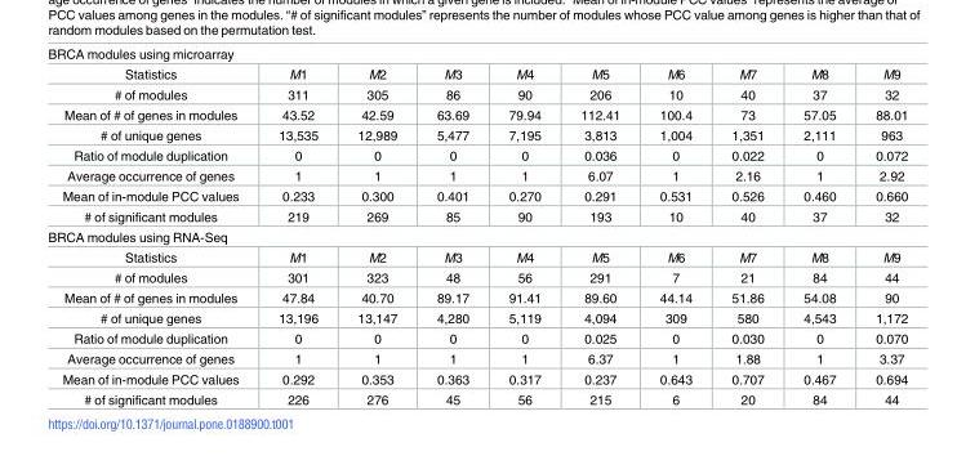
<table><tbody><tr><td colspan="10">BRCA modules using microarray</td></tr><tr><td>Statistics</td><td>M1</td><td>M2</td><td>M3</td><td>M4</td><td>M5</td><td>M6</td><td>M7</td><td>M8</td><td>M9</td></tr><tr><td># of modules</td><td>311</td><td>305</td><td>86</td><td>90</td><td>206</td><td>10</td><td>40</td><td>37</td><td>32</td></tr><tr><td>Mean of # of genes in modules</td><td>43.52</td><td>42.59</td><td>63.69</td><td>79.94</td><td>112.41</td><td>100.4</td><td>73</td><td>57.05</td><td>88.01</td></tr><tr><td># of unique genes</td><td>13,535</td><td>12,989</td><td>5,477</td><td>7,195</td><td>3,813</td><td>1,004</td><td>1,351</td><td>2,111</td><td>963</td></tr><tr><td>Ratio of module duplication</td><td>0</td><td>0</td><td>0</td><td>0</td><td>0.036</td><td>0</td><td>0.022</td><td>0</td><td>0.072</td></tr><tr><td>Average occurrence of genes</td><td>1</td><td>1</td><td>1</td><td>1</td><td>6.07</td><td>1</td><td>2.16</td><td>1</td><td>2.92</td></tr><tr><td>Mean of in-module PCC values</td><td>0.233</td><td>0.300</td><td>0.401</td><td>0.270</td><td>0.291</td><td>0.531</td><td>0.526</td><td>0.460</td><td>0.660</td></tr><tr><td># of significant modules</td><td>219</td><td>269</td><td>85</td><td>90</td><td>193</td><td>10</td><td>40</td><td>37</td><td>32</td></tr><tr><td colspan="10">BRCA modules using RNA-Seq</td></tr><tr><td>Statistics</td><td>M1</td><td>M2</td><td>M3</td><td>M4</td><td>M5</td><td>M6</td><td>M7</td><td>M8</td><td>M9</td></tr><tr><td># of modules</td><td>301</td><td>323</td><td>48</td><td>56</td><td>291</td><td>7</td><td>21</td><td>84</td><td>44</td></tr><tr><td>Mean of # of genes in modules</td><td>47.84</td><td>40.70</td><td>89.17</td><td>91.41</td><td>89.60</td><td>44.14</td><td>51.86</td><td>54.08</td><td>90</td></tr><tr><td># of unique genes</td><td>13,196</td><td>13,147</td><td>4,280</td><td>5,119</td><td>4,094</td><td>309</td><td>580</td><td>4,543</td><td>1,172</td></tr><tr><td>Ratio of module duplication</td><td>0</td><td>0</td><td>0</td><td>0</td><td>0.025</td><td>0</td><td>0.030</td><td>0</td><td>0.070</td></tr><tr><td>Average occurrence of genes</td><td>1</td><td>1</td><td>1</td><td>1</td><td>6.37</td><td>1</td><td>1.88</td><td>1</td><td>3.37</td></tr><tr><td>Mean of in-module PCC values</td><td>0.292</td><td>0.353</td><td>0.363</td><td>0.317</td><td>0.237</td><td>0.643</td><td>0.707</td><td>0.467</td><td>0.694</td></tr><tr><td># of significant modules</td><td>226</td><td>276</td><td>45</td><td>56</td><td>215</td><td>6</td><td>20</td><td>84</td><td>44</td></tr></tbody></table>